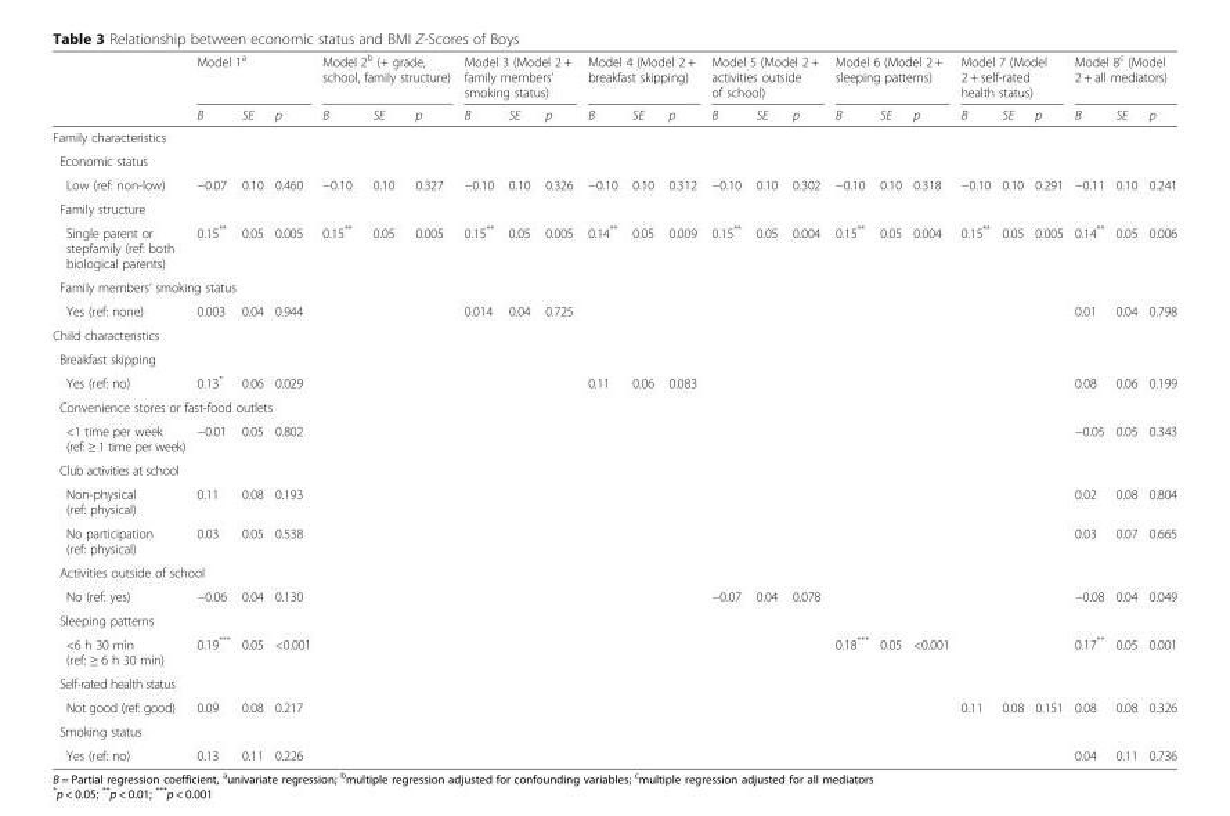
<table><thead><tr><td rowspan="2"></td><td colspan="3">Model 1<sup>a</sup></td><td colspan="3">Model 2<sup>b</sup> (+ grade, school, family structure)</td><td colspan="3">Model 3 (Model 2 + family members’ smoking status)</td><td colspan="3">Model 4 (Model 2 + breakfast skipping)</td><td colspan="3">Model 5 (Model 2 + activities outside of school)</td><td colspan="3">Model 6 (Model 2 + sleeping patterns)</td><td colspan="3">Model 7 (Model 2 + self-rated health status)</td><td colspan="3">Model 8<sup>c</sup> (Model 2 + all mediators)</td></tr><tr><td>B</td><td>SE</td><td>p</td><td>B</td><td>SE</td><td>p</td><td>B</td><td>SE</td><td>p</td><td>B</td><td>SE</td><td>p</td><td>B</td><td>SE</td><td>p</td><td>B</td><td>SE</td><td>p</td><td>B</td><td>SE</td><td>p</td><td>B</td><td>SE</td><td>p</td></tr></thead><tbody><tr><td colspan="25">Family characteristics</td></tr><tr><td colspan="25">Economic status</td></tr><tr><td>Low (ref: non-low)</td><td>−0.07</td><td>0.10</td><td>0.460</td><td>−0.10</td><td>0.10</td><td>0.327</td><td>−0.10</td><td>0.10</td><td>0.326</td><td>−0.10</td><td>0.10</td><td>0.312</td><td>−0.10</td><td>0.10</td><td>0.302</td><td>−0.10</td><td>0.10</td><td>0.318</td><td>−0.10</td><td>0.10</td><td>0.291</td><td>−0.11</td><td>0.10</td><td>0.241</td></tr><tr><td colspan="25">Family structure</td></tr><tr><td>Single parent or stepfamily (ref: both biological parents)</td><td>0.15**</td><td>0.05</td><td>0.005</td><td>0.15**</td><td>0.05</td><td>0.005</td><td>0.15**</td><td>0.05</td><td>0.005</td><td>0.14**</td><td>0.05</td><td>0.009</td><td>0.15**</td><td>0.05</td><td>0.004</td><td>0.15**</td><td>0.05</td><td>0.004</td><td>0.15**</td><td>0.05</td><td>0.005</td><td>0.14**</td><td>0.05</td><td>0.006</td></tr><tr><td colspan="25">Family members’ smoking status</td></tr><tr><td>Yes (ref: none)</td><td>0.003</td><td>0.04</td><td>0.944</td><td></td><td></td><td></td><td>0.014</td><td>0.04</td><td>0.725</td><td></td><td></td><td></td><td></td><td></td><td></td><td></td><td></td><td></td><td></td><td></td><td></td><td>0.01</td><td>0.04</td><td>0.798</td></tr><tr><td colspan="25">Child characteristics</td></tr><tr><td colspan="25">Breakfast skipping</td></tr><tr><td>Yes (ref: no)</td><td>0.13*</td><td>0.06</td><td>0.029</td><td></td><td></td><td></td><td></td><td></td><td></td><td>0.11</td><td>0.06</td><td>0.083</td><td></td><td></td><td></td><td></td><td></td><td></td><td></td><td></td><td></td><td>0.08</td><td>0.06</td><td>0.199</td></tr><tr><td colspan="25">Convenience stores or fast-food outlets</td></tr><tr><td>&lt;1 time per week (ref: ≥ 1 time per week)</td><td>−0.01</td><td>0.05</td><td>0.802</td><td></td><td></td><td></td><td></td><td></td><td></td><td></td><td></td><td></td><td></td><td></td><td></td><td></td><td></td><td></td><td></td><td></td><td></td><td>−0.05</td><td>0.05</td><td>0.343</td></tr><tr><td colspan="25">Club activities at school</td></tr><tr><td>Non-physical (ref: physical)</td><td>0.11</td><td>0.08</td><td>0.193</td><td></td><td></td><td></td><td></td><td></td><td></td><td></td><td></td><td></td><td></td><td></td><td></td><td></td><td></td><td></td><td></td><td></td><td></td><td>0.02</td><td>0.08</td><td>0.804</td></tr><tr><td>No participation (ref: physical)</td><td>0.03</td><td>0.05</td><td>0.538</td><td></td><td></td><td></td><td></td><td></td><td></td><td></td><td></td><td></td><td></td><td></td><td></td><td></td><td></td><td></td><td></td><td></td><td></td><td>0.03</td><td>0.07</td><td>0.665</td></tr><tr><td colspan="25">Activities outside of school</td></tr><tr><td>No (ref: yes)</td><td>−0.06</td><td>0.04</td><td>0.130</td><td></td><td></td><td></td><td></td><td></td><td></td><td></td><td></td><td></td><td>−0.07</td><td>0.04</td><td>0.078</td><td></td><td></td><td></td><td></td><td></td><td></td><td>−0.08</td><td>0.04</td><td>0.049</td></tr><tr><td colspan="25">Sleeping patterns</td></tr><tr><td>&lt;6 h 30 min (ref: ≥ 6 h 30 min)</td><td>0.19***</td><td>0.05</td><td>&lt;0.001</td><td></td><td></td><td></td><td></td><td></td><td></td><td></td><td></td><td></td><td></td><td></td><td></td><td>0.18***</td><td>0.05</td><td>&lt;0.001</td><td></td><td></td><td></td><td>0.17**</td><td>0.05</td><td>0.001</td></tr><tr><td colspan="25">Self-rated health status</td></tr><tr><td>Not good (ref: good)</td><td>0.09</td><td>0.08</td><td>0.217</td><td></td><td></td><td></td><td></td><td></td><td></td><td></td><td></td><td></td><td></td><td></td><td></td><td></td><td></td><td></td><td>0.11</td><td>0.08</td><td>0.151</td><td>0.08</td><td>0.08</td><td>0.326</td></tr><tr><td colspan="25">Smoking status</td></tr><tr><td>Yes (ref: no)</td><td>0.13</td><td>0.11</td><td>0.226</td><td></td><td></td><td></td><td></td><td></td><td></td><td></td><td></td><td></td><td></td><td></td><td></td><td></td><td></td><td></td><td></td><td></td><td></td><td>0.04</td><td>0.11</td><td>0.736</td></tr></tbody></table>